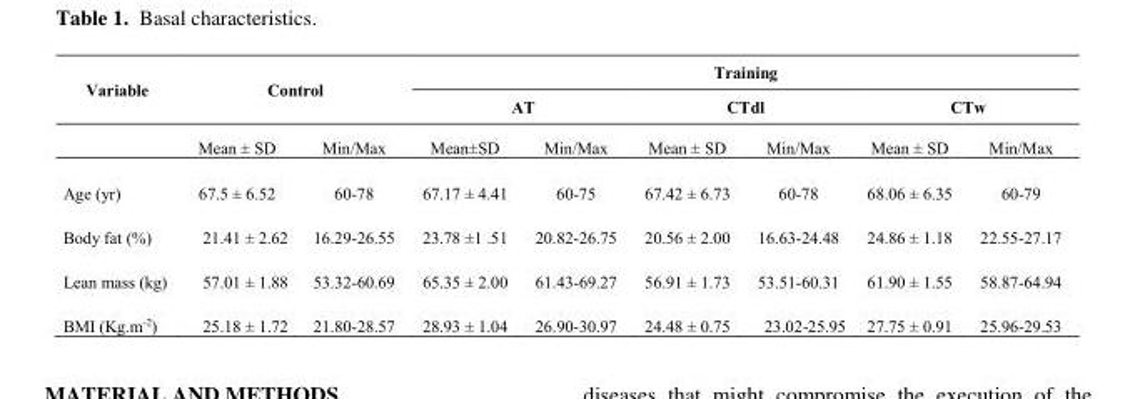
<table><thead><tr><td rowspan="3">Variable</td><td rowspan="2" colspan="2">Control</td><td colspan="6">Training</td></tr><tr><td colspan="2">AT</td><td colspan="2">CTdl</td><td colspan="2">CTw</td></tr><tr><td>Mean ± SD</td><td>Min/Max</td><td>Mean±SD</td><td>Min/Max</td><td>Mean ± SD</td><td>Min/Max</td><td>Mean ± SD</td><td>Min/Max</td></tr></thead><tbody><tr><td>Age (yr)</td><td>67.5 ± 6.52</td><td>60-78</td><td>67.17 ± 4.41</td><td>60-75</td><td>67.42 ± 6.73</td><td>60-78</td><td>68.06 ± 6.35</td><td>60-79</td></tr><tr><td>Body fat (%)</td><td>21.41 ± 2.62</td><td>16.29-26.55</td><td>23.78 ±1 .51</td><td>20.82-26.75</td><td>20.56 ± 2.00</td><td>16.63-24.48</td><td>24.86 ± 1.18</td><td>22.55-27.17</td></tr><tr><td>Lean mass (kg)</td><td>57.01 ± 1.88</td><td>53.32-60.69</td><td>65.35 ± 2.00</td><td>61.43-69.27</td><td>56.91 ± 1.73</td><td>53.51-60.31</td><td>61.90 ± 1.55</td><td>58.87-64.94</td></tr><tr><td>BMI (Kg.m<sup>-2</sup>)</td><td>25.18 ± 1.72</td><td>21.80-28.57</td><td>28.93 ± 1.04</td><td>26.90-30.97</td><td>24.48 ± 0.75</td><td>23.02-25.95</td><td>27.75 ± 0.91</td><td>25.96-29.53</td></tr></tbody></table>